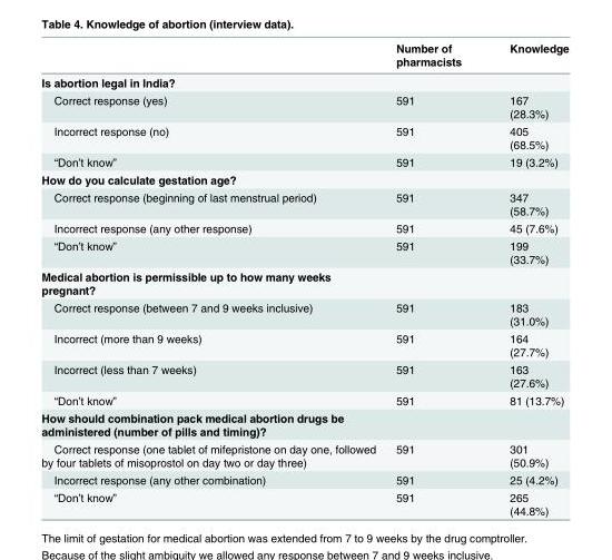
<table><thead><tr><td></td><td>Number of pharmacists</td><td>Knowledge</td></tr></thead><tbody><tr><td colspan="3">Is abortion legal in India?</td></tr><tr><td>Correct response (yes)</td><td>591</td><td>167 (28.3%)</td></tr><tr><td>Incorrect response (no)</td><td>591</td><td>405 (68.5%)</td></tr><tr><td>“Don’t know”</td><td>591</td><td>19 (3.2%)</td></tr><tr><td colspan="3">How do you calculate gestation age?</td></tr><tr><td>Correct response (beginning of last menstrual period)</td><td>591</td><td>347 (58.7%)</td></tr><tr><td>Incorrect response (any other response)</td><td>591</td><td>45 (7.6%)</td></tr><tr><td>“Don’t know”</td><td>591</td><td>199 (33.7%)</td></tr><tr><td colspan="3">Medical abortion is permissible up to how many weeks pregnant?</td></tr><tr><td>Correct response (between 7 and 9 weeks inclusive)</td><td>591</td><td>183 (31.0%)</td></tr><tr><td>Incorrect (more than 9 weeks)</td><td>591</td><td>164 (27.7%)</td></tr><tr><td>Incorrect (less than 7 weeks)</td><td>591</td><td>163 (27.6%)</td></tr><tr><td>“Don’t know”</td><td>591</td><td>81 (13.7%)</td></tr><tr><td colspan="3">How should combination pack medical abortion drugs be administered (number of pills and timing)?</td></tr><tr><td>Correct response (one tablet of mifepristone on day one, followed by four tablets of misoprostol on day two or day three)</td><td>591</td><td>301 (50.9%)</td></tr><tr><td>Incorrect response (any other combination)</td><td>591</td><td>25 (4.2%)</td></tr><tr><td>“Don’t know”</td><td>591</td><td>265 (44.8%)</td></tr></tbody></table>